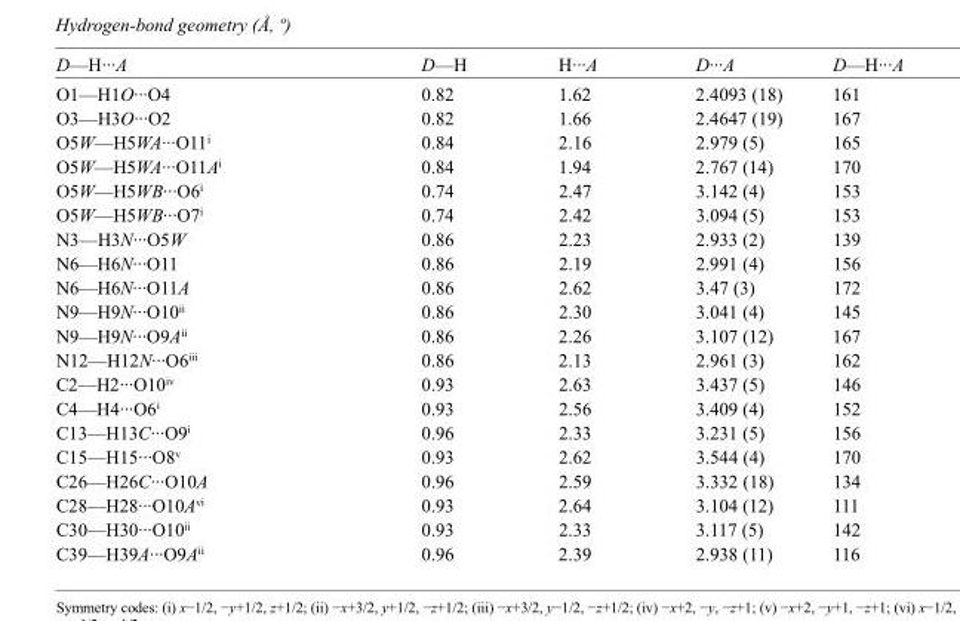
<table><tbody><tr><td>D—H···A</td><td>D—H</td><td>H···A</td><td>D···A</td><td>D—H···A</td></tr><tr><td>O1—H1O···O4</td><td>0.82</td><td>1.62</td><td>2.4093 (18)</td><td>161</td></tr><tr><td>O3—H3O···O2</td><td>0.82</td><td>1.66</td><td>2.4647 (19)</td><td>167</td></tr><tr><td>O5W—H5WA···O11<sup>i</sup></td><td>0.84</td><td>2.16</td><td>2.979 (5)</td><td>165</td></tr><tr><td>O5W—H5WA···O11A<sup>i</sup></td><td>0.84</td><td>1.94</td><td>2.767 (14)</td><td>170</td></tr><tr><td>O5W—H5WB···O6<sup>i</sup></td><td>0.74</td><td>2.47</td><td>3.142 (4)</td><td>153</td></tr><tr><td>O5W—H5WB···O7<sup>i</sup></td><td>0.74</td><td>2.42</td><td>3.094 (5)</td><td>153</td></tr><tr><td>N3—H3N···O5W</td><td>0.86</td><td>2.23</td><td>2.933 (2)</td><td>139</td></tr><tr><td>N6—H6N···O11</td><td>0.86</td><td>2.19</td><td>2.991 (4)</td><td>156</td></tr><tr><td>N6—H6N···O11A</td><td>0.86</td><td>2.62</td><td>3.47 (3)</td><td>172</td></tr><tr><td>N9—H9N···O10<sup>ii</sup></td><td>0.86</td><td>2.30</td><td>3.041 (4)</td><td>145</td></tr><tr><td>N9—H9N···O9A<sup>ii</sup></td><td>0.86</td><td>2.26</td><td>3.107 (12)</td><td>167</td></tr><tr><td>N12—H12N···O6<sup>iii</sup></td><td>0.86</td><td>2.13</td><td>2.961 (3)</td><td>162</td></tr><tr><td>C2—H2···O10<sup>iv</sup></td><td>0.93</td><td>2.63</td><td>3.437 (5)</td><td>146</td></tr><tr><td>C4—H4···O6<sup>i</sup></td><td>0.93</td><td>2.56</td><td>3.409 (4)</td><td>152</td></tr><tr><td>C13—H13C···O9<sup>i</sup></td><td>0.96</td><td>2.33</td><td>3.231 (5)</td><td>156</td></tr><tr><td>C15—H15···O8<sup>v</sup></td><td>0.93</td><td>2.62</td><td>3.544 (4)</td><td>170</td></tr><tr><td>C26—H26C···O10A</td><td>0.96</td><td>2.59</td><td>3.332 (18)</td><td>134</td></tr><tr><td>C28—H28···O10A<sup>vi</sup></td><td>0.93</td><td>2.64</td><td>3.104 (12)</td><td>111</td></tr><tr><td>C30—H30···O10<sup>ii</sup></td><td>0.93</td><td>2.33</td><td>3.117 (5)</td><td>142</td></tr><tr><td>C39—H39A···O9A<sup>ii</sup></td><td>0.96</td><td>2.39</td><td>2.938 (11)</td><td>116</td></tr></tbody></table>